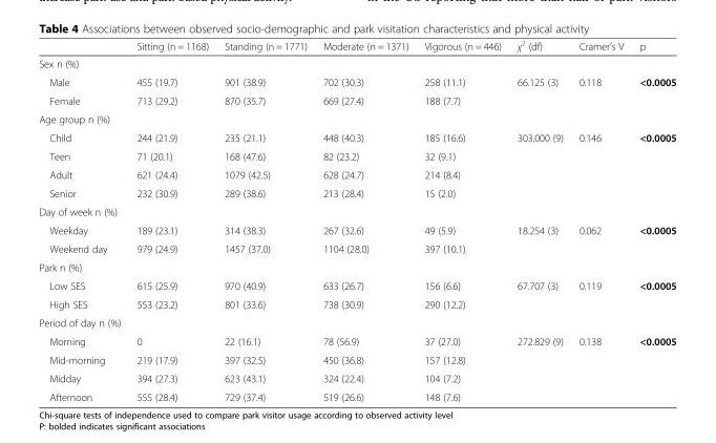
<table><thead><tr><td></td><td>Sitting (n = 1168)</td><td>Standing (n = 1771)</td><td>Moderate (n = 1371)</td><td>Vigorous (n = 446)</td><td>χ<sup>2</sup> (df)</td><td>Cramer’s V</td><td>p</td></tr></thead><tbody><tr><td colspan="8">Sex n (%)</td></tr><tr><td>Male</td><td>455 (19.7)</td><td>901 (38.9)</td><td>702 (30.3)</td><td>258 (11.1)</td><td>66.125 (3)</td><td>0.118</td><td>&lt;0.0005</td></tr><tr><td>Female</td><td>713 (29.2)</td><td>870 (35.7)</td><td>669 (27.4)</td><td>188 (7.7)</td><td></td><td></td><td></td></tr><tr><td colspan="8">Age group n (%)</td></tr><tr><td>Child</td><td>244 (21.9)</td><td>235 (21.1)</td><td>448 (40.3)</td><td>185 (16.6)</td><td>303.000 (9)</td><td>0.146</td><td>&lt;0.0005</td></tr><tr><td>Teen</td><td>71 (20.1)</td><td>168 (47.6)</td><td>82 (23.2)</td><td>32 (9.1)</td><td></td><td></td><td></td></tr><tr><td>Adult</td><td>621 (24.4)</td><td>1079 (42.5)</td><td>628 (24.7)</td><td>214 (8.4)</td><td></td><td></td><td></td></tr><tr><td>Senior</td><td>232 (30.9)</td><td>289 (38.6)</td><td>213 (28.4)</td><td>15 (2.0)</td><td></td><td></td><td></td></tr><tr><td colspan="8">Day of week n (%)</td></tr><tr><td>Weekday</td><td>189 (23.1)</td><td>314 (38.3)</td><td>267 (32.6)</td><td>49 (5.9)</td><td>18.254 (3)</td><td>0.062</td><td>&lt;0.0005</td></tr><tr><td>Weekend day</td><td>979 (24.9)</td><td>1457 (37.0)</td><td>1104 (28.0)</td><td>397 (10.1)</td><td></td><td></td><td></td></tr><tr><td colspan="8">Park n (%)</td></tr><tr><td>Low SES</td><td>615 (25.9)</td><td>970 (40.9)</td><td>633 (26.7)</td><td>156 (6.6)</td><td>67.707 (3)</td><td>0.119</td><td>&lt;0.0005</td></tr><tr><td>High SES</td><td>553 (23.2)</td><td>801 (33.6)</td><td>738 (30.9)</td><td>290 (12.2)</td><td></td><td></td><td></td></tr><tr><td colspan="8">Period of day n (%)</td></tr><tr><td>Morning</td><td>0</td><td>22 (16.1)</td><td>78 (56.9)</td><td>37 (27.0)</td><td>272.829 (9)</td><td>0.138</td><td>&lt;0.0005</td></tr><tr><td>Mid-morning</td><td>219 (17.9)</td><td>397 (32.5)</td><td>450 (36.8)</td><td>157 (12.8)</td><td></td><td></td><td></td></tr><tr><td>Midday</td><td>394 (27.3)</td><td>623 (43.1)</td><td>324 (22.4)</td><td>104 (7.2)</td><td></td><td></td><td></td></tr><tr><td>Afternoon</td><td>555 (28.4)</td><td>729 (37.4)</td><td>519 (26.6)</td><td>148 (7.6)</td><td></td><td></td><td></td></tr></tbody></table>